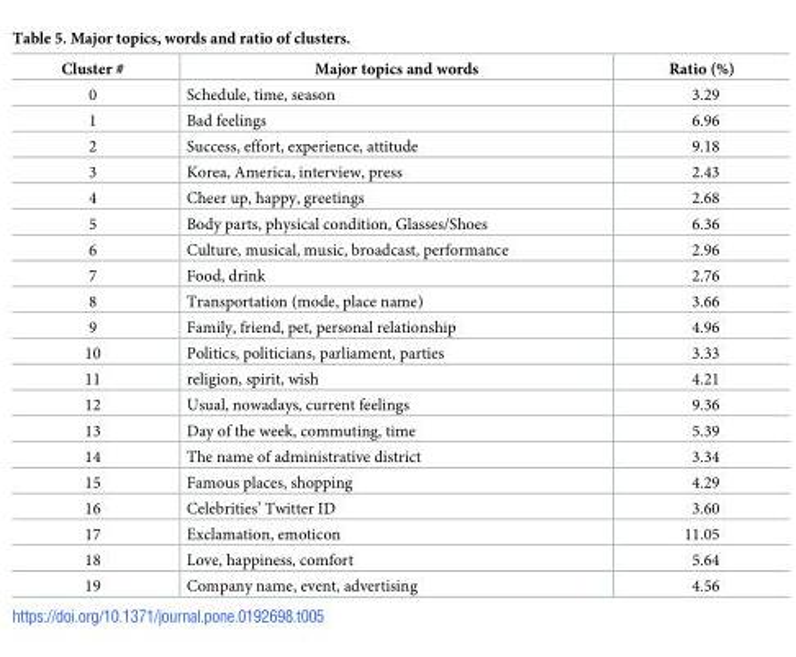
<table><thead><tr><td>Cluster #</td><td>Major topics and words</td><td>Ratio (%)</td></tr></thead><tbody><tr><td>0</td><td>Schedule, time, season</td><td>3.29</td></tr><tr><td>1</td><td>Bad feelings</td><td>6.96</td></tr><tr><td>2</td><td>Success, effort, experience, attitude</td><td>9.18</td></tr><tr><td>3</td><td>Korea, America, interview, press</td><td>2.43</td></tr><tr><td>4</td><td>Cheer up, happy, greetings</td><td>2.68</td></tr><tr><td>5</td><td>Body parts, physical condition, Glasses/Shoes</td><td>6.36</td></tr><tr><td>6</td><td>Culture, musical, music, broadcast, performance</td><td>2.96</td></tr><tr><td>7</td><td>Food, drink</td><td>2.76</td></tr><tr><td>8</td><td>Transportation (mode, place name)</td><td>3.66</td></tr><tr><td>9</td><td>Family, friend, pet, personal relationship</td><td>4.96</td></tr><tr><td>10</td><td>Politics, politicians, parliament, parties</td><td>3.33</td></tr><tr><td>11</td><td>religion, spirit, wish</td><td>4.21</td></tr><tr><td>12</td><td>Usual, nowadays, current feelings</td><td>9.36</td></tr><tr><td>13</td><td>Day of the week, commuting, time</td><td>5.39</td></tr><tr><td>14</td><td>The name of administrative district</td><td>3.34</td></tr><tr><td>15</td><td>Famous places, shopping</td><td>4.29</td></tr><tr><td>16</td><td>Celebrities’ Twitter ID</td><td>3.60</td></tr><tr><td>17</td><td>Exclamation, emoticon</td><td>11.05</td></tr><tr><td>18</td><td>Love, happiness, comfort</td><td>5.64</td></tr><tr><td>19</td><td>Company name, event, advertising</td><td>4.56</td></tr></tbody></table>